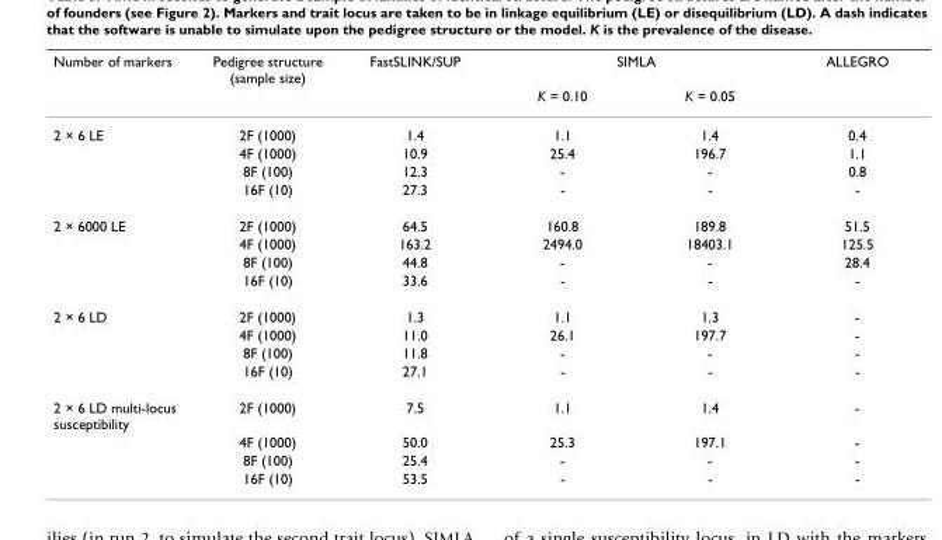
<table><thead><tr><td rowspan="2">Number of markers</td><td rowspan="2">Pedigree structure (sample size)</td><td rowspan="2">FastSLINK/SUP</td><td colspan="2">SIMLA</td><td rowspan="2">ALLEGRO</td></tr><tr><td>K = 0.10</td><td>K = 0.05</td></tr></thead><tbody><tr><td rowspan="4">2 × 6 LE</td><td>2F (1000)</td><td>1.4</td><td>1.1</td><td>1.4</td><td>0.4</td></tr><tr><td>4F (1000)</td><td>10.9</td><td>25.4</td><td>196.7</td><td>1.1</td></tr><tr><td>8F (100)</td><td>12.3</td><td>-</td><td>-</td><td>0.8</td></tr><tr><td>16F (10)</td><td>27.3</td><td>-</td><td>-</td><td>-</td></tr><tr><td rowspan="4">2 × 6000 LE</td><td>2F (1000)</td><td>64.5</td><td>160.8</td><td>189.8</td><td>51.5</td></tr><tr><td>4F (1000)</td><td>163.2</td><td>2494.0</td><td>18403.1</td><td>125.5</td></tr><tr><td>8F (100)</td><td>44.8</td><td>-</td><td>-</td><td>28.4</td></tr><tr><td>16F (10)</td><td>33.6</td><td>-</td><td>-</td><td>-</td></tr><tr><td rowspan="4">2 × 6 LD</td><td>2F (1000)</td><td>1.3</td><td>1.1</td><td>1.3</td><td>-</td></tr><tr><td>4F (1000)</td><td>11.0</td><td>26.1</td><td>197.7</td><td>-</td></tr><tr><td>8F (100)</td><td>11.8</td><td>-</td><td>-</td><td>-</td></tr><tr><td>16F (10)</td><td>27.1</td><td>-</td><td>-</td><td>-</td></tr><tr><td rowspan="4">2 × 6 LD multi-locus susceptibility</td><td>2F (1000)</td><td>7.5</td><td>1.1</td><td>1.4</td><td>-</td></tr><tr><td>4F (1000)</td><td>50.0</td><td>25.3</td><td>197.1</td><td>-</td></tr><tr><td>8F (100)</td><td>25.4</td><td>-</td><td>-</td><td>-</td></tr><tr><td>16F (10)</td><td>53.5</td><td>-</td><td>-</td><td>-</td></tr></tbody></table>